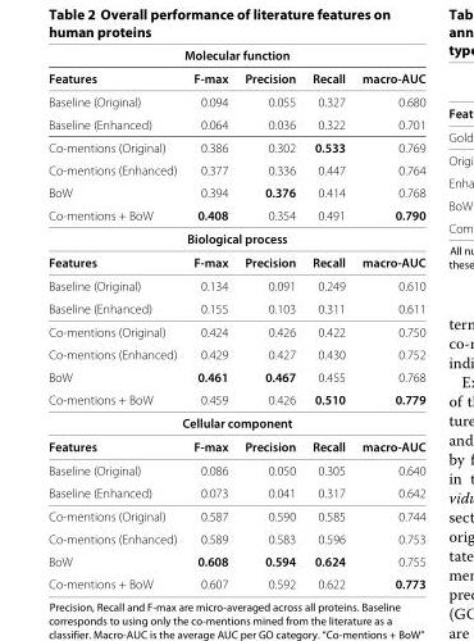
<table><thead><tr><td colspan="5">Molecular function</td></tr><tr><td>Features</td><td>F-max</td><td>Precision</td><td>Recall</td><td>macro-AUC</td></tr></thead><tbody><tr><td>Baseline (Original)</td><td>0.094</td><td>0.055</td><td>0.327</td><td>0.680</td></tr><tr><td>Baseline (Enhanced)</td><td>0.064</td><td>0.036</td><td>0.322</td><td>0.701</td></tr><tr><td>Co-mentions (Original)</td><td>0.386</td><td>0.302</td><td>0.533</td><td>0.769</td></tr><tr><td>Co-mentions (Enhanced)</td><td>0.377</td><td>0.336</td><td>0.447</td><td>0.764</td></tr><tr><td>BoW</td><td>0.394</td><td>0.376</td><td>0.414</td><td>0.768</td></tr><tr><td>Co-mentions + BoW</td><td>0.408</td><td>0.354</td><td>0.491</td><td>0.790</td></tr><tr><td colspan="5">Biological process</td></tr><tr><td>Features</td><td>F-max</td><td>Precision</td><td>Recall</td><td>macro-AUC</td></tr><tr><td>Baseline (Original)</td><td>0.134</td><td>0.091</td><td>0.249</td><td>0.610</td></tr><tr><td>Baseline (Enhanced)</td><td>0.155</td><td>0.103</td><td>0.311</td><td>0.611</td></tr><tr><td>Co-mentions (Original)</td><td>0.424</td><td>0.426</td><td>0.422</td><td>0.750</td></tr><tr><td>Co-mentions (Enhanced)</td><td>0.429</td><td>0.427</td><td>0.430</td><td>0.752</td></tr><tr><td>BoW</td><td>0.461</td><td>0.467</td><td>0.455</td><td>0.768</td></tr><tr><td>Co-mentions + BoW</td><td>0.459</td><td>0.426</td><td>0.510</td><td>0.779</td></tr><tr><td colspan="5">Cellular component</td></tr><tr><td>Features</td><td>F-max</td><td>Precision</td><td>Recall</td><td>macro-AUC</td></tr><tr><td>Baseline (Original)</td><td>0.086</td><td>0.050</td><td>0.305</td><td>0.640</td></tr><tr><td>Baseline (Enhanced)</td><td>0.073</td><td>0.041</td><td>0.317</td><td>0.642</td></tr><tr><td>Co-mentions (Original)</td><td>0.587</td><td>0.590</td><td>0.585</td><td>0.744</td></tr><tr><td>Co-mentions (Enhanced)</td><td>0.589</td><td>0.583</td><td>0.596</td><td>0.753</td></tr><tr><td>BoW</td><td>0.608</td><td>0.594</td><td>0.624</td><td>0.755</td></tr><tr><td>Co-mentions + BoW</td><td>0.607</td><td>0.592</td><td>0.622</td><td>0.773</td></tr></tbody></table>